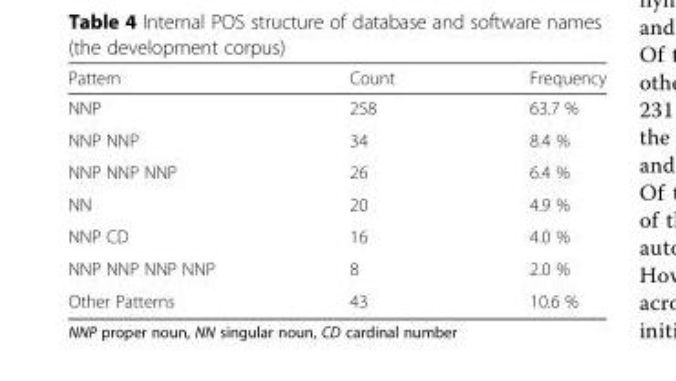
<table><thead><tr><td>Pattern</td><td>Count</td><td>Frequency</td></tr></thead><tbody><tr><td>NNP</td><td>258</td><td>63.7 %</td></tr><tr><td>NNP NNP</td><td>34</td><td>8.4 %</td></tr><tr><td>NNP NNP NNP</td><td>26</td><td>6.4 %</td></tr><tr><td>NN</td><td>20</td><td>4.9 %</td></tr><tr><td>NNP CD</td><td>16</td><td>4.0 %</td></tr><tr><td>NNP NNP NNP NNP</td><td>8</td><td>2.0 %</td></tr><tr><td>Other Patterns</td><td>43</td><td>10.6 %</td></tr></tbody></table>